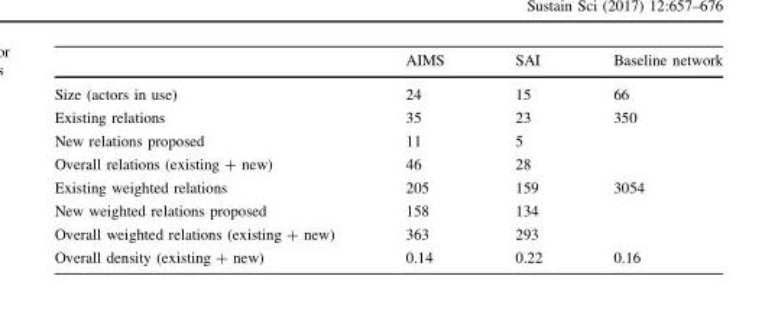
<table><thead><tr><td></td><td>AIMS</td><td>SAI</td><td>Baseline network</td></tr></thead><tbody><tr><td>Size (actors in use)</td><td>24</td><td>15</td><td>66</td></tr><tr><td>Existing relations</td><td>35</td><td>23</td><td>350</td></tr><tr><td>New relations proposed</td><td>11</td><td>5</td><td></td></tr><tr><td>Overall relations (existing + new)</td><td>46</td><td>28</td><td></td></tr><tr><td>Existing weighted relations</td><td>205</td><td>159</td><td>3054</td></tr><tr><td>New weighted relations proposed</td><td>158</td><td>134</td><td></td></tr><tr><td>Overall weighted relations (existing + new)</td><td>363</td><td>293</td><td></td></tr><tr><td>Overall density (existing + new)</td><td>0.14</td><td>0.22</td><td>0.16</td></tr></tbody></table>